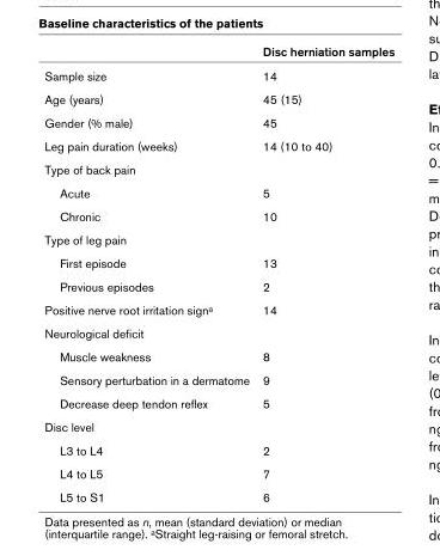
<table><thead><tr><td></td><td>Disc herniation samples</td></tr></thead><tbody><tr><td>Sample size</td><td>14</td></tr><tr><td>Age (years)</td><td>45 (15)</td></tr><tr><td>Gender (% male)</td><td>45</td></tr><tr><td>Leg pain duration (weeks)</td><td>14 (10 to 40)</td></tr><tr><td colspan="2">Type of back pain</td></tr><tr><td>Acute</td><td>5</td></tr><tr><td>Chronic</td><td>10</td></tr><tr><td colspan="2">Type of leg pain</td></tr><tr><td>First episode</td><td>13</td></tr><tr><td>Previous episodes</td><td>2</td></tr><tr><td>Positive nerve root irritation sign<sup>a</sup></td><td>14</td></tr><tr><td colspan="2">Neurological deficit</td></tr><tr><td>Muscle weakness</td><td>8</td></tr><tr><td>Sensory perturbation in a dermatome</td><td>9</td></tr><tr><td>Decrease deep tendon reflex</td><td>5</td></tr><tr><td colspan="2">Disc level</td></tr><tr><td>L3 to L4</td><td>2</td></tr><tr><td>L4 to L5</td><td>7</td></tr><tr><td>L5 to S1</td><td>6</td></tr></tbody></table>